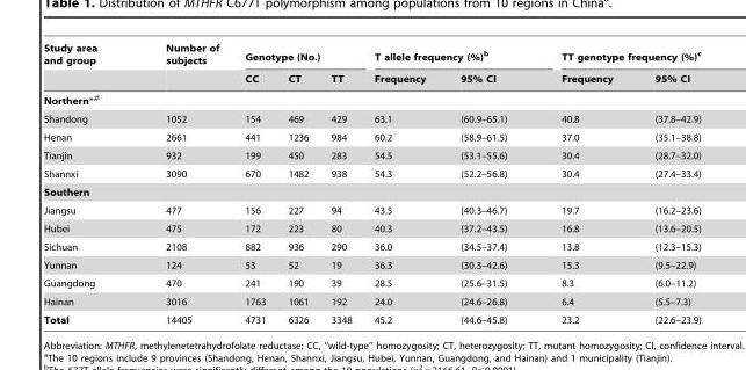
<table><thead><tr><td rowspan="2">Study area and group</td><td rowspan="2">Number of subjects</td><td colspan="3">Genotype (No.)</td><td colspan="2">T allele frequency (%)<sup>b</sup></td><td colspan="2">TT genotype frequency (%)<sup>c</sup></td></tr><tr><td>CC</td><td>CT</td><td>TT</td><td>Frequency</td><td>95% CI</td><td>Frequency</td><td>95% CI</td></tr></thead><tbody><tr><td colspan="9">Northern*#</td></tr><tr><td>Shandong</td><td>1052</td><td>154</td><td>469</td><td>429</td><td>63.1</td><td>(60.9–65.1)</td><td>40.8</td><td>(37.8–42.9)</td></tr><tr><td>Henan</td><td>2661</td><td>441</td><td>1236</td><td>984</td><td>60.2</td><td>(58.9–61.5)</td><td>37.0</td><td>(35.1–38.8)</td></tr><tr><td>Tianjin</td><td>932</td><td>199</td><td>450</td><td>283</td><td>54.5</td><td>(53.1–55.6)</td><td>30.4</td><td>(28.7–32.0)</td></tr><tr><td>Shannxi</td><td>3090</td><td>670</td><td>1482</td><td>938</td><td>54.3</td><td>(52.2–56.8)</td><td>30.4</td><td>(27.4–33.4)</td></tr><tr><td colspan="9">Southern</td></tr><tr><td>Jiangsu</td><td>477</td><td>156</td><td>227</td><td>94</td><td>43.5</td><td>(40.3–46.7)</td><td>19.7</td><td>(16.2–23.6)</td></tr><tr><td>Hubei</td><td>475</td><td>172</td><td>223</td><td>80</td><td>40.3</td><td>(37.2–43.5)</td><td>16.8</td><td>(13.6–20.5)</td></tr><tr><td>Sichuan</td><td>2108</td><td>882</td><td>936</td><td>290</td><td>36.0</td><td>(34.5–37.4)</td><td>13.8</td><td>(12.3–15.3)</td></tr><tr><td>Yunnan</td><td>124</td><td>53</td><td>52</td><td>19</td><td>36.3</td><td>(30.3–42.6)</td><td>15.3</td><td>(9.5–22.9)</td></tr><tr><td>Guangdong</td><td>470</td><td>241</td><td>190</td><td>39</td><td>28.5</td><td>(25.6–31.5)</td><td>8.3</td><td>(6.0–11.2)</td></tr><tr><td>Hainan</td><td>3016</td><td>1763</td><td>1061</td><td>192</td><td>24.0</td><td>(24.6–26.8)</td><td>6.4</td><td>(5.5–7.3)</td></tr><tr><td>Total</td><td>14405</td><td>4731</td><td>6326</td><td>3348</td><td>45.2</td><td>(44.6–45.8)</td><td>23.2</td><td>(22.6–23.9)</td></tr></tbody></table>